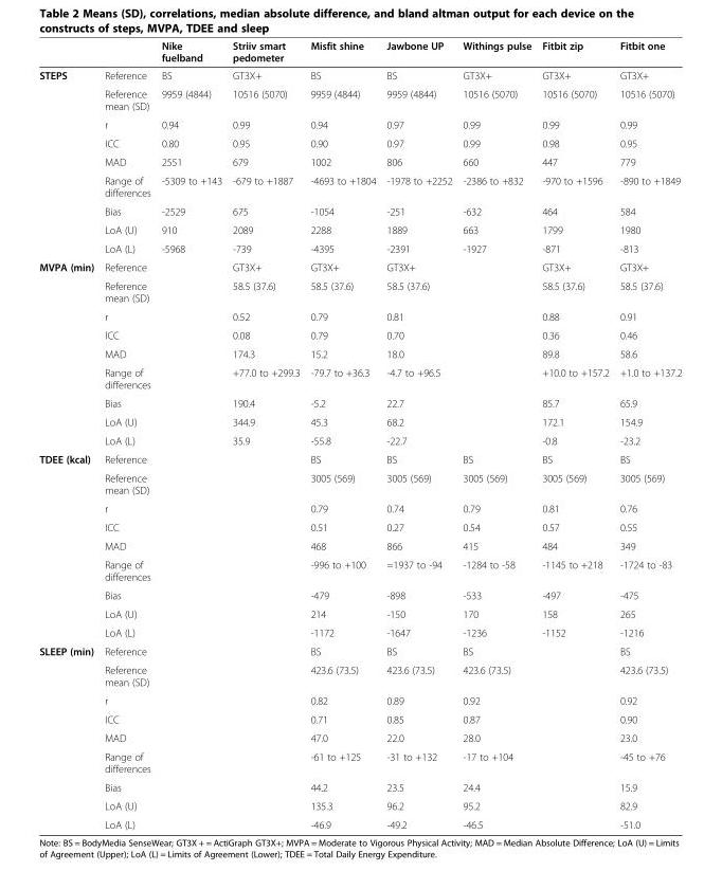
<table><thead><tr><td></td><td></td><td>Nike fuelband</td><td>Striiv smart pedometer</td><td>Misfit shine</td><td>Jawbone UP</td><td>Withings pulse</td><td>Fitbit zip</td><td>Fitbit one</td></tr></thead><tbody><tr><td rowspan="9">STEPS</td><td>Reference</td><td>BS</td><td>GT3X+</td><td>BS</td><td>BS</td><td>GT3X+</td><td>GT3X+</td><td>GT3X+</td></tr><tr><td>Reference mean (SD)</td><td>9959 (4844)</td><td>10516 (5070)</td><td>9959 (4844)</td><td>9959 (4844)</td><td>10516 (5070)</td><td>10516 (5070)</td><td>10516 (5070)</td></tr><tr><td>r</td><td>0.94</td><td>0.99</td><td>0.94</td><td>0.97</td><td>0.99</td><td>0.99</td><td>0.99</td></tr><tr><td>ICC</td><td>0.80</td><td>0.95</td><td>0.90</td><td>0.97</td><td>0.99</td><td>0.98</td><td>0.95</td></tr><tr><td>MAD</td><td>2551</td><td>679</td><td>1002</td><td>806</td><td>660</td><td>447</td><td>779</td></tr><tr><td>Range of differences</td><td>-5309 to +143</td><td>-679 to +1887</td><td>-4693 to +1804</td><td>-1978 to +2252</td><td>-2386 to +832</td><td>-970 to +1596</td><td>-890 to +1849</td></tr><tr><td>Bias</td><td>-2529</td><td>675</td><td>-1054</td><td>-251</td><td>-632</td><td>464</td><td>584</td></tr><tr><td>LoA (U)</td><td>910</td><td>2089</td><td>2288</td><td>1889</td><td>663</td><td>1799</td><td>1980</td></tr><tr><td>LoA (L)</td><td>-5968</td><td>-739</td><td>-4395</td><td>-2391</td><td>-1927</td><td>-871</td><td>-813</td></tr><tr><td rowspan="9">MVPA (min)</td><td>Reference</td><td></td><td>GT3X+</td><td>GT3X+</td><td>GT3X+</td><td></td><td>GT3X+</td><td>GT3X+</td></tr><tr><td>Reference mean (SD)</td><td></td><td>58.5 (37.6)</td><td>58.5 (37.6)</td><td>58.5 (37.6)</td><td></td><td>58.5 (37.6)</td><td>58.5 (37.6)</td></tr><tr><td>r</td><td></td><td>0.52</td><td>0.79</td><td>0.81</td><td></td><td>0.88</td><td>0.91</td></tr><tr><td>ICC</td><td></td><td>0.08</td><td>0.79</td><td>0.70</td><td></td><td>0.36</td><td>0.46</td></tr><tr><td>MAD</td><td></td><td>174.3</td><td>15.2</td><td>18.0</td><td></td><td>89.8</td><td>58.6</td></tr><tr><td>Range of differences</td><td></td><td>+77.0 to +299.3</td><td>-79.7 to +36.3</td><td>-4.7 to +96.5</td><td></td><td>+10.0 to +157.2</td><td>+1.0 to +137.2</td></tr><tr><td>Bias</td><td></td><td>190.4</td><td>-5.2</td><td>22.7</td><td></td><td>85.7</td><td>65.9</td></tr><tr><td>LoA (U)</td><td></td><td>344.9</td><td>45.3</td><td>68.2</td><td></td><td>172.1</td><td>154.9</td></tr><tr><td>LoA (L)</td><td></td><td>35.9</td><td>-55.8</td><td>-22.7</td><td></td><td>-0.8</td><td>-23.2</td></tr><tr><td rowspan="9">TDEE (kcal)</td><td>Reference</td><td></td><td></td><td>BS</td><td>BS</td><td>BS</td><td>BS</td><td>BS</td></tr><tr><td>Reference mean (SD)</td><td></td><td></td><td>3005 (569)</td><td>3005 (569)</td><td>3005 (569)</td><td>3005 (569)</td><td>3005 (569)</td></tr><tr><td>r</td><td></td><td></td><td>0.79</td><td>0.74</td><td>0.79</td><td>0.81</td><td>0.76</td></tr><tr><td>ICC</td><td></td><td></td><td>0.51</td><td>0.27</td><td>0.54</td><td>0.57</td><td>0.55</td></tr><tr><td>MAD</td><td></td><td></td><td>468</td><td>866</td><td>415</td><td>484</td><td>349</td></tr><tr><td>Range of differences</td><td></td><td></td><td>-996 to +100</td><td>=1937 to -94</td><td>-1284 to -58</td><td>-1145 to +218</td><td>-1724 to -83</td></tr><tr><td>Bias</td><td></td><td></td><td>-479</td><td>-898</td><td>-533</td><td>-497</td><td>-475</td></tr><tr><td>LoA (U)</td><td></td><td></td><td>214</td><td>-150</td><td>170</td><td>158</td><td>265</td></tr><tr><td>LoA (L)</td><td></td><td></td><td>-1172</td><td>-1647</td><td>-1236</td><td>-1152</td><td>-1216</td></tr><tr><td rowspan="9">SLEEP (min)</td><td>Reference</td><td></td><td></td><td>BS</td><td>BS</td><td>BS</td><td></td><td>BS</td></tr><tr><td>Reference mean (SD)</td><td></td><td></td><td>423.6 (73.5)</td><td>423.6 (73.5)</td><td>423.6 (73.5)</td><td></td><td>423.6 (73.5)</td></tr><tr><td>r</td><td></td><td></td><td>0.82</td><td>0.89</td><td>0.92</td><td></td><td>0.92</td></tr><tr><td>ICC</td><td></td><td></td><td>0.71</td><td>0.85</td><td>0.87</td><td></td><td>0.90</td></tr><tr><td>MAD</td><td></td><td></td><td>47.0</td><td>22.0</td><td>28.0</td><td></td><td>23.0</td></tr><tr><td>Range of differences</td><td></td><td></td><td>-61 to +125</td><td>-31 to +132</td><td>-17 to +104</td><td></td><td>-45 to +76</td></tr><tr><td>Bias</td><td></td><td></td><td>44.2</td><td>23.5</td><td>24.4</td><td></td><td>15.9</td></tr><tr><td>LoA (U)</td><td></td><td></td><td>135.3</td><td>96.2</td><td>95.2</td><td></td><td>82.9</td></tr><tr><td>LoA (L)</td><td></td><td></td><td>-46.9</td><td>-49.2</td><td>-46.5</td><td></td><td>-51.0</td></tr></tbody></table>